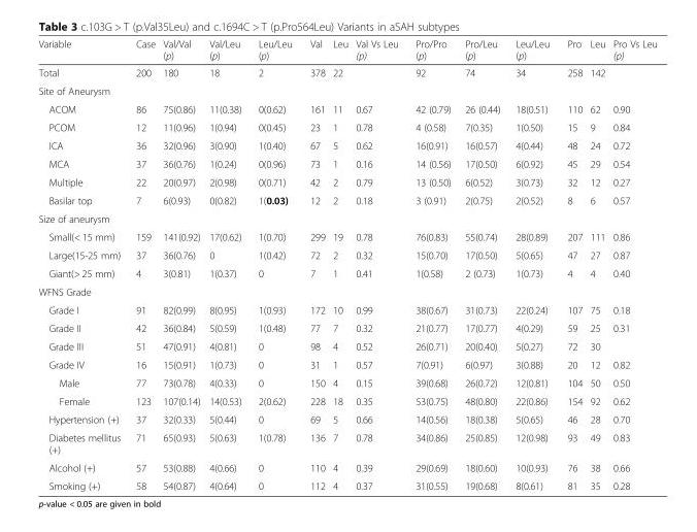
<table><thead><tr><td>Variable</td><td>Case</td><td>Val/Val (p)</td><td>Val/Leu (p)</td><td>Leu/Leu (p)</td><td>Val</td><td>Leu</td><td>Val Vs Leu (p)</td><td>Pro/Pro (p)</td><td>Pro/Leu (p)</td><td>Leu/Leu (p)</td><td>Pro</td><td>Leu</td><td>Pro Vs Leu (p)</td></tr></thead><tbody><tr><td>Total</td><td>200</td><td>180</td><td>18</td><td>2</td><td>378</td><td>22</td><td></td><td>92</td><td>74</td><td>34</td><td>258</td><td>142</td><td></td></tr><tr><td colspan="14">Site of Aneurysm</td></tr><tr><td>ACOM</td><td>86</td><td>75(0.86)</td><td>11(0.38)</td><td>0(0.62)</td><td>161</td><td>11</td><td>0.67</td><td>42 (0.79)</td><td>26 (0.44)</td><td>18(0.51)</td><td>110</td><td>62</td><td>0.90</td></tr><tr><td>PCOM</td><td>12</td><td>11(0.96)</td><td>1(0.94)</td><td>0(0.45)</td><td>23</td><td>1</td><td>0.78</td><td>4 (0.58)</td><td>7(0.35)</td><td>1(0.50)</td><td>15</td><td>9</td><td>0.84</td></tr><tr><td>ICA</td><td>36</td><td>32(0.96)</td><td>3(0.90)</td><td>1(0.40)</td><td>67</td><td>5</td><td>0.62</td><td>16(0.91)</td><td>16(0.57)</td><td>4(0.44)</td><td>48</td><td>24</td><td>0.72</td></tr><tr><td>MCA</td><td>37</td><td>36(0.76)</td><td>1(0.24)</td><td>0(0.96)</td><td>73</td><td>1</td><td>0.16</td><td>14 (0.56)</td><td>17(0.50)</td><td>6(0.92)</td><td>45</td><td>29</td><td>0.54</td></tr><tr><td>Multiple</td><td>22</td><td>20(0.97)</td><td>2(0.98)</td><td>0(0.71)</td><td>42</td><td>2</td><td>0.79</td><td>13 (0.50)</td><td>6(0.52)</td><td>3(0.73)</td><td>32</td><td>12</td><td>0.27</td></tr><tr><td>Basilar top</td><td>7</td><td>6(0.93)</td><td>0(0.82)</td><td>1(0.03)</td><td>12</td><td>2</td><td>0.18</td><td>3 (0.91)</td><td>2(0.75)</td><td>2(0.52)</td><td>8</td><td>6</td><td>0.57</td></tr><tr><td colspan="14">Size of aneurysm</td></tr><tr><td>Small(&lt; 15 mm)</td><td>159</td><td>141(0.92)</td><td>17(0.62)</td><td>1(0.70)</td><td>299</td><td>19</td><td>0.78</td><td>76(0.83)</td><td>55(0.74)</td><td>28(0.89)</td><td>207</td><td>111</td><td>0.86</td></tr><tr><td>Large(15-25 mm)</td><td>37</td><td>36(0.76)</td><td>0</td><td>1(0.42)</td><td>72</td><td>2</td><td>0.32</td><td>15(0.70)</td><td>17(0.50)</td><td>5(0.65)</td><td>47</td><td>27</td><td>0.87</td></tr><tr><td>Giant(&gt; 25 mm)</td><td>4</td><td>3(0.81)</td><td>1(0.37)</td><td>0</td><td>7</td><td>1</td><td>0.41</td><td>1(0.58)</td><td>2 (0.73)</td><td>1(0.73)</td><td>4</td><td>4</td><td>0.40</td></tr><tr><td colspan="14">WFNS Grade</td></tr><tr><td>Grade I</td><td>91</td><td>82(0.99)</td><td>8(0.95)</td><td>1(0.93)</td><td>172</td><td>10</td><td>0.99</td><td>38(0.67)</td><td>31(0.73)</td><td>22(0.24)</td><td>107</td><td>75</td><td>0.18</td></tr><tr><td>Grade II</td><td>42</td><td>36(0.84)</td><td>5(0.59)</td><td>1(0.48)</td><td>77</td><td>7</td><td>0.32</td><td>21(0.77)</td><td>17(0.77)</td><td>4(0.29)</td><td>59</td><td>25</td><td>0.31</td></tr><tr><td>Grade III</td><td>51</td><td>47(0.91)</td><td>4(0.81)</td><td>0</td><td>98</td><td>4</td><td>0.52</td><td>26(0.71)</td><td>20(0.40)</td><td>5(0.27)</td><td>72</td><td>30</td><td></td></tr><tr><td>Grade IV</td><td>16</td><td>15(0.91)</td><td>1(0.73)</td><td>0</td><td>31</td><td>1</td><td>0.57</td><td>7(0.91)</td><td>6(0.97)</td><td>3(0.88)</td><td>20</td><td>12</td><td>0.82</td></tr><tr><td>Male</td><td>77</td><td>73(0.78)</td><td>4(0.33)</td><td>0</td><td>150</td><td>4</td><td>0.15</td><td>39(0.68)</td><td>26(0.72)</td><td>12(0.81)</td><td>104</td><td>50</td><td>0.50</td></tr><tr><td>Female</td><td>123</td><td>107(0.14)</td><td>14(0.53)</td><td>2(0.62)</td><td>228</td><td>18</td><td>0.35</td><td>53(0.75)</td><td>48(0.80)</td><td>22(0.86)</td><td>154</td><td>92</td><td>0.62</td></tr><tr><td>Hypertension (+)</td><td>37</td><td>32(0.33)</td><td>5(0.44)</td><td>0</td><td>69</td><td>5</td><td>0.66</td><td>14(0.56)</td><td>18(0.38)</td><td>5(0.65)</td><td>46</td><td>28</td><td>0.70</td></tr><tr><td>Diabetes mellitus (+)</td><td>71</td><td>65(0.93)</td><td>5(0.63)</td><td>1(0.78)</td><td>136</td><td>7</td><td>0.78</td><td>34(0.86)</td><td>25(0.85)</td><td>12(0.98)</td><td>93</td><td>49</td><td>0.83</td></tr><tr><td>Alcohol (+)</td><td>57</td><td>53(0.88)</td><td>4(0.66)</td><td>0</td><td>110</td><td>4</td><td>0.39</td><td>29(0.69)</td><td>18(0.60)</td><td>10(0.93)</td><td>76</td><td>38</td><td>0.66</td></tr><tr><td>Smoking (+)</td><td>58</td><td>54(0.87)</td><td>4(0.64)</td><td>0</td><td>112</td><td>4</td><td>0.37</td><td>31(0.55)</td><td>19(0.68)</td><td>8(0.61)</td><td>81</td><td>35</td><td>0.28</td></tr></tbody></table>